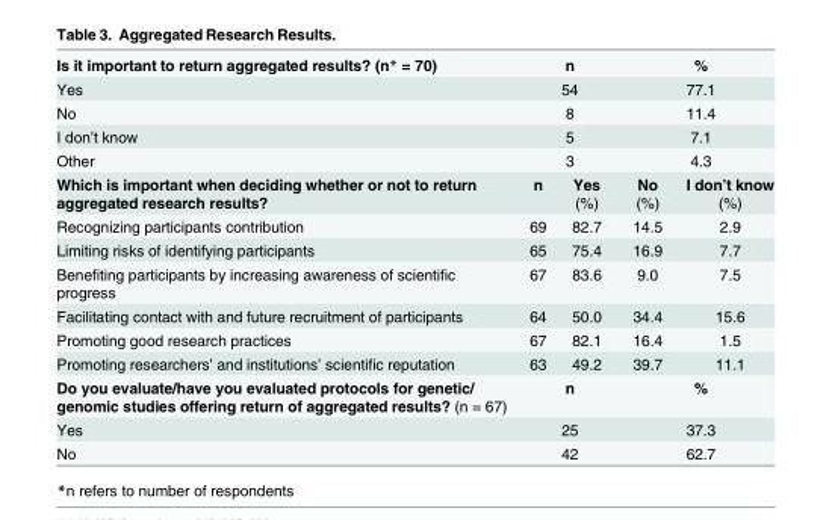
<table><tbody><tr><td>Is it important to return aggregated results? (n* = 70)</td><td colspan="2">n</td><td colspan="2">%</td></tr><tr><td>Yes</td><td colspan="2">54</td><td colspan="2">77.1</td></tr><tr><td>No</td><td colspan="2">8</td><td colspan="2">11.4</td></tr><tr><td>I don’t know</td><td colspan="2">5</td><td colspan="2">7.1</td></tr><tr><td>Other</td><td colspan="2">3</td><td colspan="2">4.3</td></tr><tr><td>Which is important when deciding whether or not to return aggregated research results?</td><td>n</td><td>Yes (%)</td><td>No (%)</td><td>I don’t know (%)</td></tr><tr><td>Recognizing participants contribution</td><td>69</td><td>82.7</td><td>14.5</td><td>2.9</td></tr><tr><td>Limiting risks of identifying participants</td><td>65</td><td>75.4</td><td>16.9</td><td>7.7</td></tr><tr><td>Benefiting participants by increasing awareness of scientific progress</td><td>67</td><td>83.6</td><td>9.0</td><td>7.5</td></tr><tr><td>Facilitating contact with and future recruitment of participants</td><td>64</td><td>50.0</td><td>34.4</td><td>15.6</td></tr><tr><td>Promoting good research practices</td><td>67</td><td>82.1</td><td>16.4</td><td>1.5</td></tr><tr><td>Promoting researchers’ and institutions’ scientific reputation</td><td>63</td><td>49.2</td><td>39.7</td><td>11.1</td></tr><tr><td>Do you evaluate/have you evaluated protocols for genetic/ genomic studies offering return of aggregated results? (n = 67)</td><td colspan="2">n</td><td colspan="2">%</td></tr><tr><td>Yes</td><td colspan="2">25</td><td colspan="2">37.3</td></tr><tr><td>No</td><td colspan="2">42</td><td colspan="2">62.7</td></tr></tbody></table>